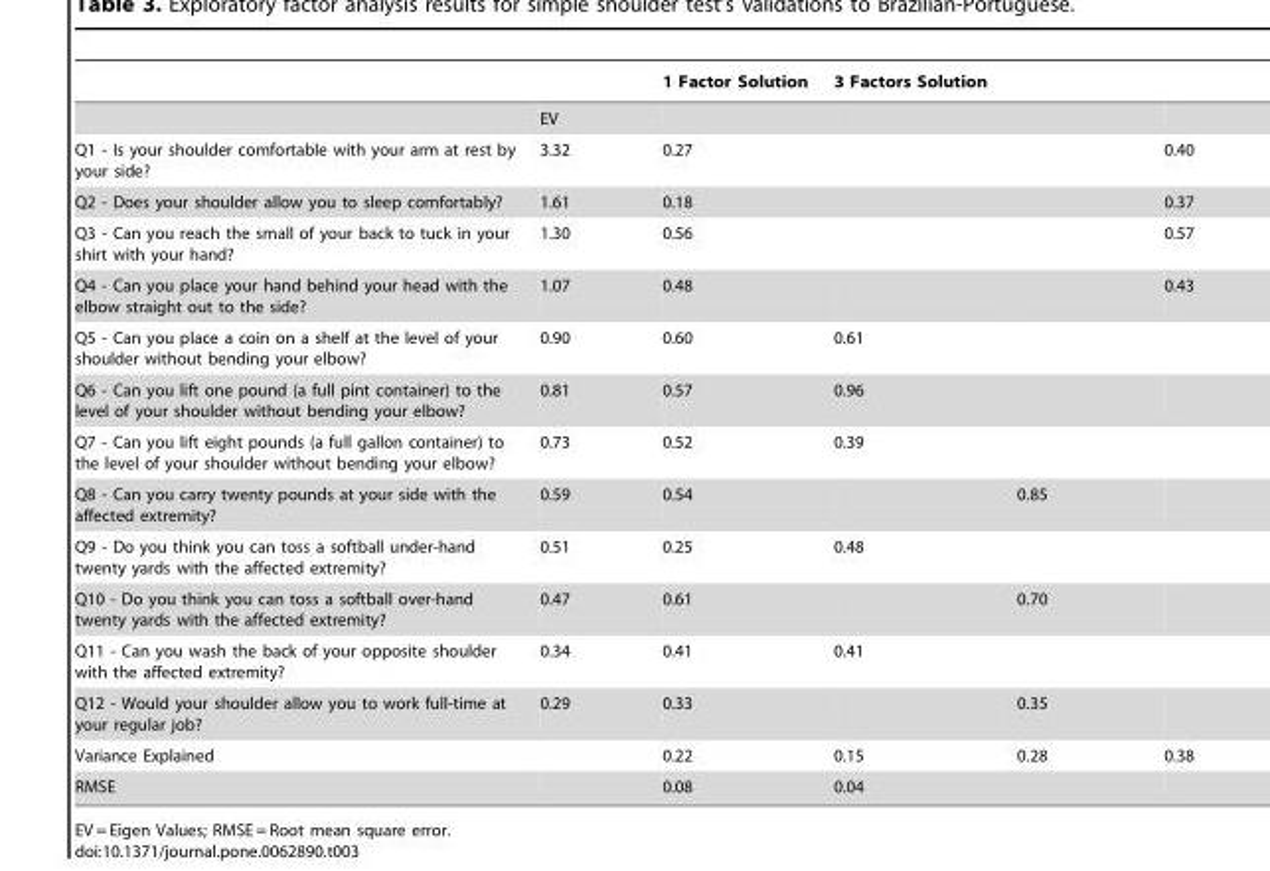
<table><thead><tr><td></td><td></td><td>1 Factor Solution</td><td>3 Factors Solution</td><td></td><td></td></tr></thead><tbody><tr><td></td><td>EV</td><td></td><td></td><td></td><td></td></tr><tr><td>Q1 - Is your shoulder comfortable with your arm at rest by your side?</td><td>3.32</td><td>0.27</td><td></td><td></td><td>0.40</td></tr><tr><td>Q2 - Does your shoulder allow you to sleep comfortably?</td><td>1.61</td><td>0.18</td><td></td><td></td><td>0.37</td></tr><tr><td>Q3 - Can you reach the small of your back to tuck in your shirt with your hand?</td><td>1.30</td><td>0.56</td><td></td><td></td><td>0.57</td></tr><tr><td>Q4 - Can you place your hand behind your head with the elbow straight out to the side?</td><td>1.07</td><td>0.48</td><td></td><td></td><td>0.43</td></tr><tr><td>Q5 - Can you place a coin on a shelf at the level of your shoulder without bending your elbow?</td><td>0.90</td><td>0.60</td><td>0.61</td><td></td><td></td></tr><tr><td>Q6 - Can you lift one pound (a full pint container) to the level of your shoulder without bending your elbow?</td><td>0.81</td><td>0.57</td><td>0.96</td><td></td><td></td></tr><tr><td>Q7 - Can you lift eight pounds (a full gallon container) to the level of your shoulder without bending your elbow?</td><td>0.73</td><td>0.52</td><td>0.39</td><td></td><td></td></tr><tr><td>Q8 - Can you carry twenty pounds at your side with the affected extremity?</td><td>0.59</td><td>0.54</td><td></td><td>0.85</td><td></td></tr><tr><td>Q9 - Do you think you can toss a softball under-hand twenty yards with the affected extremity?</td><td>0.51</td><td>0.25</td><td>0.48</td><td></td><td></td></tr><tr><td>Q10 - Do you think you can toss a softball over-hand twenty yards with the affected extremity?</td><td>0.47</td><td>0.61</td><td></td><td>0.70</td><td></td></tr><tr><td>Q11 - Can you wash the back of your opposite shoulder with the affected extremity?</td><td>0.34</td><td>0.41</td><td>0.41</td><td></td><td></td></tr><tr><td>Q12 - Would your shoulder allow you to work full-time at your regular job?</td><td>0.29</td><td>0.33</td><td></td><td>0.35</td><td></td></tr><tr><td>Variance Explained</td><td></td><td>0.22</td><td>0.15</td><td>0.28</td><td>0.38</td></tr><tr><td>RMSE</td><td></td><td>0.08</td><td>0.04</td><td></td><td></td></tr></tbody></table>